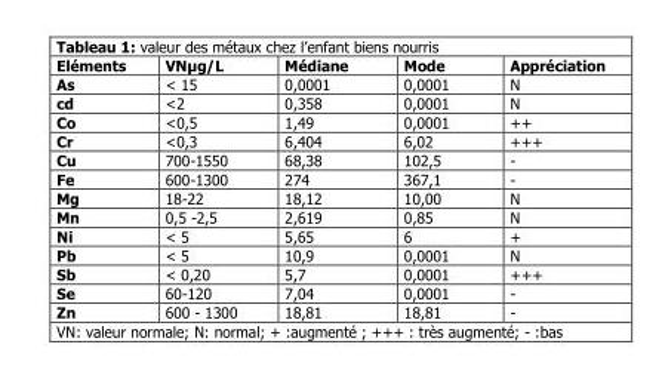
<table><thead><tr><td>Eléments</td><td>VNµg/L</td><td>Médiane</td><td>Mode</td><td>Appréciation</td></tr></thead><tbody><tr><td>As</td><td>&lt; 15</td><td>0,0001</td><td>0,0001</td><td>N</td></tr><tr><td>cd</td><td>&lt;2</td><td>0,358</td><td>0,0001</td><td>N</td></tr><tr><td>Co</td><td>&lt;0,5</td><td>1,49</td><td>0,0001</td><td>++</td></tr><tr><td>Cr</td><td>&lt;0,3</td><td>6,404</td><td>6,02</td><td>+++</td></tr><tr><td>Cu</td><td>700-1550</td><td>68,38</td><td>102,5</td><td>-</td></tr><tr><td>Fe</td><td>600-1300</td><td>274</td><td>367,1</td><td>-</td></tr><tr><td>Mg</td><td>18-22</td><td>18,12</td><td>10,00</td><td>N</td></tr><tr><td>Mn</td><td>0,5 -2,5</td><td>2,619</td><td>0,85</td><td>N</td></tr><tr><td>Ni</td><td>&lt; 5</td><td>5,65</td><td>6</td><td>+</td></tr><tr><td>Pb</td><td>&lt; 5</td><td>10,9</td><td>0,0001</td><td>N</td></tr><tr><td>Sb</td><td>&lt; 0,20</td><td>5,7</td><td>0,0001</td><td>+++</td></tr><tr><td>Se</td><td>60-120</td><td>7,04</td><td>0,0001</td><td>-</td></tr><tr><td>Zn</td><td>600 - 1300</td><td>18,81</td><td>18,81</td><td>-</td></tr></tbody></table>